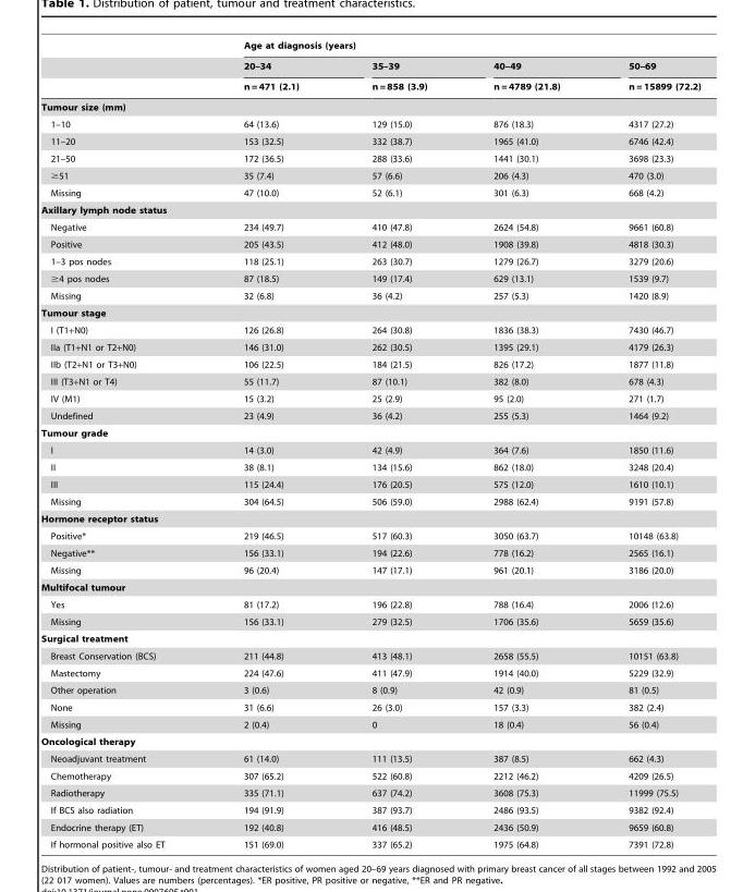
<table><thead><tr><td rowspan="3"></td><td colspan="4">Age at diagnosis (years)</td></tr><tr><td rowspan="2">20–34 n = 471 (2.1)</td><td rowspan="2">35–39 n = 858 (3.9)</td><td rowspan="2">40–49 n = 4789 (21.8)</td><td rowspan="2">50–69 n = 15899 (72.2)</td></tr><tr></tr></thead><tbody><tr><td colspan="5">Tumour size (mm)</td></tr><tr><td>1–10</td><td>64 (13.6)</td><td>129 (15.0)</td><td>876 (18.3)</td><td>4317 (27.2)</td></tr><tr><td>11–20</td><td>153 (32.5)</td><td>332 (38.7)</td><td>1965 (41.0)</td><td>6746 (42.4)</td></tr><tr><td>21–50</td><td>172 (36.5)</td><td>288 (33.6)</td><td>1441 (30.1)</td><td>3698 (23.3)</td></tr><tr><td>≥51</td><td>35 (7.4)</td><td>57 (6.6)</td><td>206 (4.3)</td><td>470 (3.0)</td></tr><tr><td>Missing</td><td>47 (10.0)</td><td>52 (6.1)</td><td>301 (6.3)</td><td>668 (4.2)</td></tr><tr><td colspan="5">Axillary lymph node status</td></tr><tr><td>Negative</td><td>234 (49.7)</td><td>410 (47.8)</td><td>2624 (54.8)</td><td>9661 (60.8)</td></tr><tr><td>Positive</td><td>205 (43.5)</td><td>412 (48.0)</td><td>1908 (39.8)</td><td>4818 (30.3)</td></tr><tr><td>1–3 pos nodes</td><td>118 (25.1)</td><td>263 (30.7)</td><td>1279 (26.7)</td><td>3279 (20.6)</td></tr><tr><td>≥4 pos nodes</td><td>87 (18.5)</td><td>149 (17.4)</td><td>629 (13.1)</td><td>1539 (9.7)</td></tr><tr><td>Missing</td><td>32 (6.8)</td><td>36 (4.2)</td><td>257 (5.3)</td><td>1420 (8.9)</td></tr><tr><td colspan="5">Tumour stage</td></tr><tr><td>I (T1+N0)</td><td>126 (26.8)</td><td>264 (30.8)</td><td>1836 (38.3)</td><td>7430 (46.7)</td></tr><tr><td>IIa (T1+N1 or T2+N0)</td><td>146 (31.0)</td><td>262 (30.5)</td><td>1395 (29.1)</td><td>4179 (26.3)</td></tr><tr><td>IIb (T2+N1 or T3+N0)</td><td>106 (22.5)</td><td>184 (21.5)</td><td>826 (17.2)</td><td>1877 (11.8)</td></tr><tr><td>III (T3+N1 or T4)</td><td>55 (11.7)</td><td>87 (10.1)</td><td>382 (8.0)</td><td>678 (4.3)</td></tr><tr><td>IV (M1)</td><td>15 (3.2)</td><td>25 (2.9)</td><td>95 (2.0)</td><td>271 (1.7)</td></tr><tr><td>Undefined</td><td>23 (4.9)</td><td>36 (4.2)</td><td>255 (5.3)</td><td>1464 (9.2)</td></tr><tr><td colspan="5">Tumour grade</td></tr><tr><td>I</td><td>14 (3.0)</td><td>42 (4.9)</td><td>364 (7.6)</td><td>1850 (11.6)</td></tr><tr><td>II</td><td>38 (8.1)</td><td>134 (15.6)</td><td>862 (18.0)</td><td>3248 (20.4)</td></tr><tr><td>III</td><td>115 (24.4)</td><td>176 (20.5)</td><td>575 (12.0)</td><td>1610 (10.1)</td></tr><tr><td>Missing</td><td>304 (64.5)</td><td>506 (59.0)</td><td>2988 (62.4)</td><td>9191 (57.8)</td></tr><tr><td colspan="5">Hormone receptor status</td></tr><tr><td>Positive*</td><td>219 (46.5)</td><td>517 (60.3)</td><td>3050 (63.7)</td><td>10148 (63.8)</td></tr><tr><td>Negative**</td><td>156 (33.1)</td><td>194 (22.6)</td><td>778 (16.2)</td><td>2565 (16.1)</td></tr><tr><td>Missing</td><td>96 (20.4)</td><td>147 (17.1)</td><td>961 (20.1)</td><td>3186 (20.0)</td></tr><tr><td colspan="5">Multifocal tumour</td></tr><tr><td>Yes</td><td>81 (17.2)</td><td>196 (22.8)</td><td>788 (16.4)</td><td>2006 (12.6)</td></tr><tr><td>Missing</td><td>156 (33.1)</td><td>279 (32.5)</td><td>1706 (35.6)</td><td>5659 (35.6)</td></tr><tr><td colspan="5">Surgical treatment</td></tr><tr><td>Breast Conservation (BCS)</td><td>211 (44.8)</td><td>413 (48.1)</td><td>2658 (55.5)</td><td>10151 (63.8)</td></tr><tr><td>Mastectomy</td><td>224 (47.6)</td><td>411 (47.9)</td><td>1914 (40.0)</td><td>5229 (32.9)</td></tr><tr><td>Other operation</td><td>3 (0.6)</td><td>8 (0.9)</td><td>42 (0.9)</td><td>81 (0.5)</td></tr><tr><td>None</td><td>31 (6.6)</td><td>26 (3.0)</td><td>157 (3.3)</td><td>382 (2.4)</td></tr><tr><td>Missing</td><td>2 (0.4)</td><td>0</td><td>18 (0.4)</td><td>56 (0.4)</td></tr><tr><td colspan="5">Oncological therapy</td></tr><tr><td>Neoadjuvant treatment</td><td>61 (14.0)</td><td>111 (13.5)</td><td>387 (8.5)</td><td>662 (4.3)</td></tr><tr><td>Chemotherapy</td><td>307 (65.2)</td><td>522 (60.8)</td><td>2212 (46.2)</td><td>4209 (26.5)</td></tr><tr><td>Radiotherapy</td><td>335 (71.1)</td><td>637 (74.2)</td><td>3608 (75.3)</td><td>11999 (75.5)</td></tr><tr><td>If BCS also radiation</td><td>194 (91.9)</td><td>387 (93.7)</td><td>2486 (93.5)</td><td>9382 (92.4)</td></tr><tr><td>Endocrine therapy (ET)</td><td>192 (40.8)</td><td>416 (48.5)</td><td>2436 (50.9)</td><td>9659 (60.8)</td></tr><tr><td>If hormonal positive also ET</td><td>151 (69.0)</td><td>337 (65.2)</td><td>1975 (64.8)</td><td>7391 (72.8)</td></tr></tbody></table>